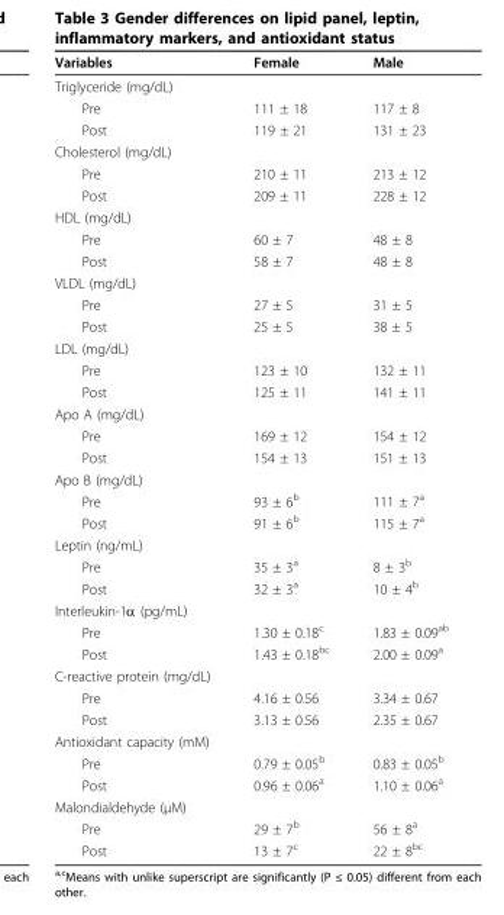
<table><thead><tr><td>Variables</td><td>Female</td><td>Male</td></tr></thead><tbody><tr><td colspan="3">Triglyceride (mg/dL)</td></tr><tr><td>Pre</td><td>111 ± 18</td><td>117 ± 8</td></tr><tr><td>Post</td><td>119 ± 21</td><td>131 ± 23</td></tr><tr><td colspan="3">Cholesterol (mg/dL)</td></tr><tr><td>Pre</td><td>210 ± 11</td><td>213 ± 12</td></tr><tr><td>Post</td><td>209 ± 11</td><td>228 ± 12</td></tr><tr><td colspan="3">HDL (mg/dL)</td></tr><tr><td>Pre</td><td>60 ± 7</td><td>48 ± 8</td></tr><tr><td>Post</td><td>58 ± 7</td><td>48 ± 8</td></tr><tr><td colspan="3">VLDL (mg/dL)</td></tr><tr><td>Pre</td><td>27 ± 5</td><td>31 ± 5</td></tr><tr><td>Post</td><td>25 ± 5</td><td>38 ± 5</td></tr><tr><td colspan="3">LDL (mg/dL)</td></tr><tr><td>Pre</td><td>123 ± 10</td><td>132 ± 11</td></tr><tr><td>Post</td><td>125 ± 11</td><td>141 ± 11</td></tr><tr><td colspan="3">Apo A (mg/dL)</td></tr><tr><td>Pre</td><td>169 ± 12</td><td>154 ± 12</td></tr><tr><td>Post</td><td>154 ± 13</td><td>151 ± 13</td></tr><tr><td colspan="3">Apo B (mg/dL)</td></tr><tr><td>Pre</td><td>93 ± 6<sup>b</sup></td><td>111 ± 7<sup>a</sup></td></tr><tr><td>Post</td><td>91 ± 6<sup>b</sup></td><td>115 ± 7<sup>a</sup></td></tr><tr><td colspan="3">Leptin (ng/mL)</td></tr><tr><td>Pre</td><td>35 ± 3<sup>a</sup></td><td>8 ± 3<sup>b</sup></td></tr><tr><td>Post</td><td>32 ± 3<sup>a</sup></td><td>10 ± 4<sup>b</sup></td></tr><tr><td colspan="3">Interleukin-1α (pg/mL)</td></tr><tr><td>Pre</td><td>1.30 ± 0.18<sup>c</sup></td><td>1.83 ± 0.09<sup>ab</sup></td></tr><tr><td>Post</td><td>1.43 ± 0.18<sup>bc</sup></td><td>2.00 ± 0.09<sup>a</sup></td></tr><tr><td colspan="3">C-reactive protein (mg/dL)</td></tr><tr><td>Pre</td><td>4.16 ± 0.56</td><td>3.34 ± 0.67</td></tr><tr><td>Post</td><td>3.13 ± 0.56</td><td>2.35 ± 0.67</td></tr><tr><td colspan="3">Antioxidant capacity (mM)</td></tr><tr><td>Pre</td><td>0.79 ± 0.05<sup>b</sup></td><td>0.83 ± 0.05<sup>b</sup></td></tr><tr><td>Post</td><td>0.96 ± 0.06<sup>a</sup></td><td>1.10 ± 0.06<sup>a</sup></td></tr><tr><td colspan="3">Malondialdehyde (μM)</td></tr><tr><td>Pre</td><td>29 ± 7<sup>b</sup></td><td>56 ± 8<sup>a</sup></td></tr><tr><td>Post</td><td>13 ± 7<sup>c</sup></td><td>22 ± 8<sup>bc</sup></td></tr></tbody></table>